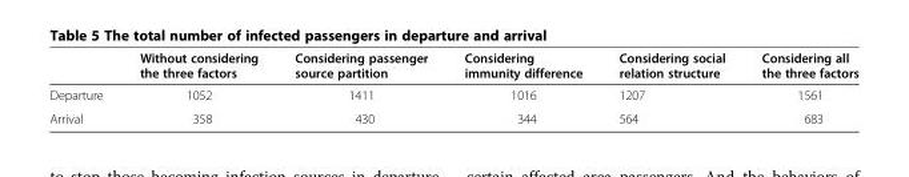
<table><thead><tr><td></td><td>Without considering the three factors</td><td>Considering passenger source partition</td><td>Considering immunity difference</td><td>Considering social relation structure</td><td>Considering all the three factors</td></tr></thead><tbody><tr><td>Departure</td><td>1052</td><td>1411</td><td>1016</td><td>1207</td><td>1561</td></tr><tr><td>Arrival</td><td>358</td><td>430</td><td>344</td><td>564</td><td>683</td></tr></tbody></table>